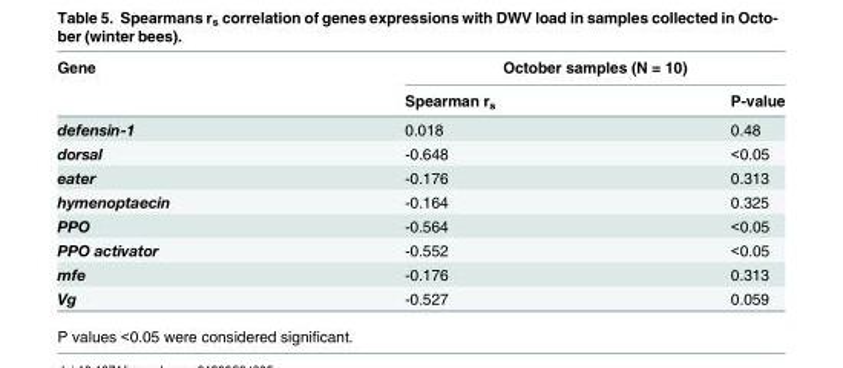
<table><thead><tr><td rowspan="2">Gene</td><td colspan="2">October samples (N = 10)</td></tr><tr><td>Spearman r<sub>s</sub></td><td>P-value</td></tr></thead><tbody><tr><td>defensin-1</td><td>0.018</td><td>0.48</td></tr><tr><td>dorsal</td><td>-0.648</td><td>&lt;0.05</td></tr><tr><td>eater</td><td>-0.176</td><td>0.313</td></tr><tr><td>hymenoptaecin</td><td>-0.164</td><td>0.325</td></tr><tr><td>PPO</td><td>-0.564</td><td>&lt;0.05</td></tr><tr><td>PPO activator</td><td>-0.552</td><td>&lt;0.05</td></tr><tr><td>mfe</td><td>-0.176</td><td>0.313</td></tr><tr><td>Vg</td><td>-0.527</td><td>0.059</td></tr></tbody></table>